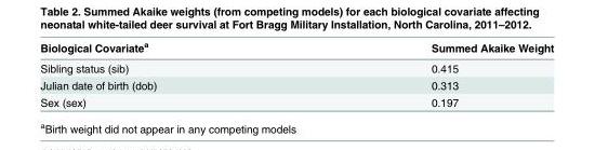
<table><thead><tr><td>Biological Covariate<sup>a</sup></td><td>Summed Akaike Weight</td></tr></thead><tbody><tr><td>Sibling status (sib)</td><td>0.415</td></tr><tr><td>Julian date of birth (dob)</td><td>0.313</td></tr><tr><td>Sex (sex)</td><td>0.197</td></tr></tbody></table>